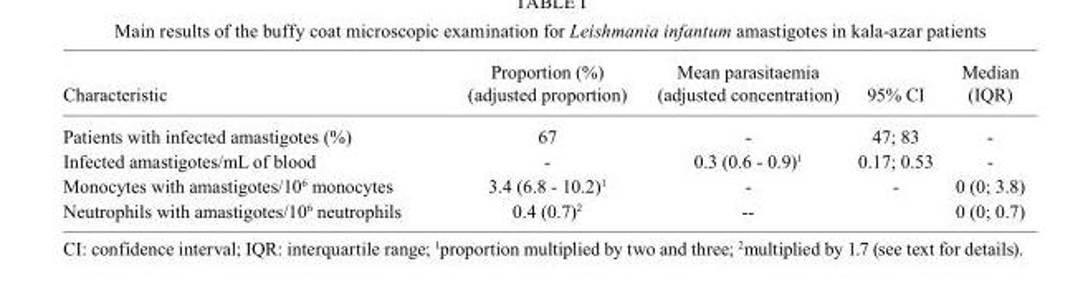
<table><thead><tr><td>Characteristic</td><td>Proportion (%) (adjusted proportion)</td><td>Mean parasitaemia (adjusted concentration)</td><td>95% CI</td><td>Median (IQR)</td></tr></thead><tbody><tr><td>Patients with infected amastigotes (%)</td><td>67</td><td>-</td><td>47; 83</td><td>-</td></tr><tr><td>Infected amastigotes/mL of blood</td><td>-</td><td>0.3 (0.6 - 0.9)<sup>1</sup></td><td>0.17; 0.53</td><td>-</td></tr><tr><td>Monocytes with amastigotes/10<sup>6</sup> monocytes</td><td>3.4 (6.8 - 10.2)<sup>1</sup></td><td>-</td><td>-</td><td>0 (0; 3.8)</td></tr><tr><td>Neutrophils with amastigotes/10<sup>6</sup> neutrophils</td><td>0.4 (0.7)<sup>2</sup></td><td>--</td><td></td><td>0 (0; 0.7)</td></tr></tbody></table>